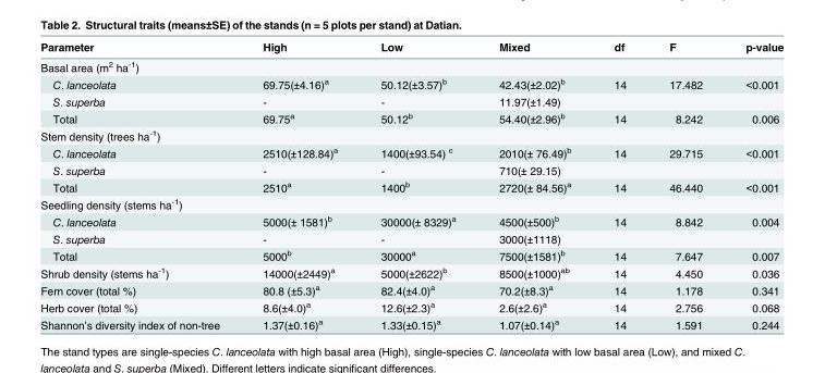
<table><thead><tr><td>Parameter</td><td>High</td><td>Low</td><td>Mixed</td><td>df</td><td>F</td><td>p-value</td></tr></thead><tbody><tr><td colspan="7">Basal area (m<sup>2</sup> ha<sup>-1</sup>)</td></tr><tr><td>C. lanceolata</td><td>69.75(±4.16)<sup>a</sup></td><td>50.12(±3.57)<sup>b</sup></td><td>42.43(±2.02)<sup>b</sup></td><td>14</td><td>17.482</td><td>&lt;0.001</td></tr><tr><td>S. superba</td><td>-</td><td>-</td><td>11.97(±1.49)</td><td></td><td></td><td></td></tr><tr><td>Total</td><td>69.75<sup>a</sup></td><td>50.12<sup>b</sup></td><td>54.40(±2.96)<sup>b</sup></td><td>14</td><td>8.242</td><td>0.006</td></tr><tr><td colspan="7">Stem density (trees ha<sup>-1</sup>)</td></tr><tr><td>C. lanceolata</td><td>2510(±128.84)<sup>a</sup></td><td>1400(±93.54) <sup>c</sup></td><td>2010(± 76.49)<sup>b</sup></td><td>14</td><td>29.715</td><td>&lt;0.001</td></tr><tr><td>S. superba</td><td>-</td><td>-</td><td>710(± 29.15)</td><td></td><td></td><td></td></tr><tr><td>Total</td><td>2510<sup>a</sup></td><td>1400<sup>b</sup></td><td>2720(± 84.56)<sup>a</sup></td><td>14</td><td>46.440</td><td>&lt;0.001</td></tr><tr><td colspan="7">Seedling density (stems ha<sup>-1</sup>)</td></tr><tr><td>C. lanceolata</td><td>5000(± 1581)<sup>b</sup></td><td>30000(± 8329)<sup>a</sup></td><td>4500(±500)<sup>b</sup></td><td>14</td><td>8.842</td><td>0.004</td></tr><tr><td>S. superba</td><td>-</td><td>-</td><td>3000(±1118)</td><td></td><td></td><td></td></tr><tr><td>Total</td><td>5000<sup>b</sup></td><td>30000<sup>a</sup></td><td>7500(±1581)<sup>b</sup></td><td>14</td><td>7.647</td><td>0.007</td></tr><tr><td>Shrub density (stems ha<sup>-1</sup>)</td><td>14000(±2449)<sup>a</sup></td><td>5000(±2622)<sup>b</sup></td><td>8500(±1000)<sup>ab</sup></td><td>14</td><td>4.450</td><td>0.036</td></tr><tr><td>Fern cover (total %)</td><td>80.8 (±5.3)<sup>a</sup></td><td>82.4(±4.0)<sup>a</sup></td><td>70.2(±8.3)<sup>a</sup></td><td>14</td><td>1.178</td><td>0.341</td></tr><tr><td>Herb cover (total %)</td><td>8.6(±4.0)<sup>a</sup></td><td>12.6(±2.3)<sup>a</sup></td><td>2.6(±2.6)<sup>a</sup></td><td>14</td><td>2.756</td><td>0.068</td></tr><tr><td>Shannon’s diversity index of non-tree</td><td>1.37(±0.16)<sup>a</sup></td><td>1.33(±0.15)<sup>a</sup></td><td>1.07(±0.14)<sup>a</sup></td><td>14</td><td>1.591</td><td>0.244</td></tr></tbody></table>